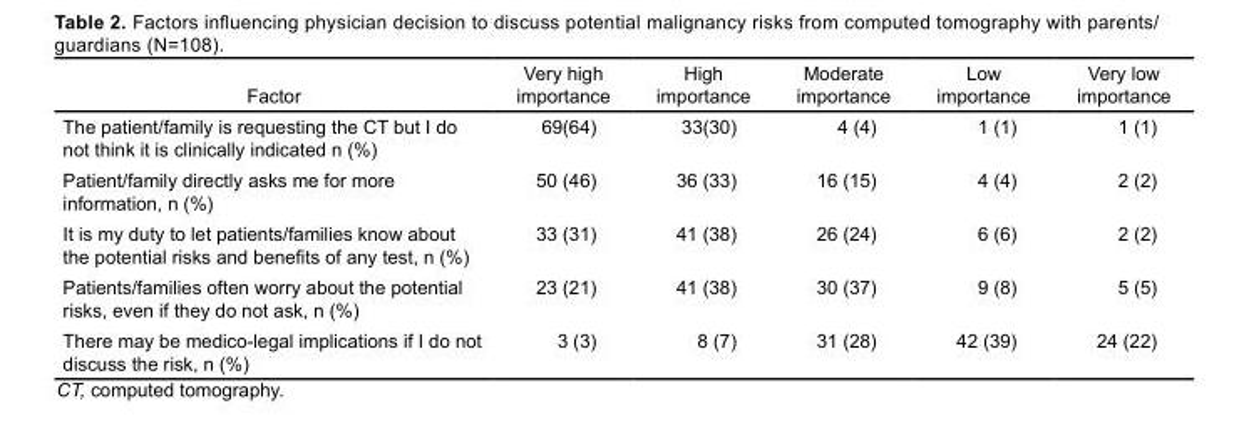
<table><thead><tr><td>Factor</td><td>Very high importance</td><td>High importance</td><td>Moderate importance</td><td>Low importance</td><td>Very low importance</td></tr></thead><tbody><tr><td>The patient/family is requesting the CT but I do not think it is clinically indicated n (%)</td><td>69(64)</td><td>33(30)</td><td>4 (4)</td><td>1 (1)</td><td>1 (1)</td></tr><tr><td>Patient/family directly asks me for more information, n (%)</td><td>50 (46)</td><td>36 (33)</td><td>16 (15)</td><td>4 (4)</td><td>2 (2)</td></tr><tr><td>It is my duty to let patients/families know about the potential risks and benefits of any test, n (%)</td><td>33 (31)</td><td>41 (38)</td><td>26 (24)</td><td>6 (6)</td><td>2 (2)</td></tr><tr><td>Patients/families often worry about the potential risks, even if they do not ask, n (%)</td><td>23 (21)</td><td>41 (38)</td><td>30 (37)</td><td>9 (8)</td><td>5 (5)</td></tr><tr><td>There may be medico-legal implications if I do not discuss the risk, n (%)</td><td>3 (3)</td><td>8 (7)</td><td>31 (28)</td><td>42 (39)</td><td>24 (22)</td></tr></tbody></table>